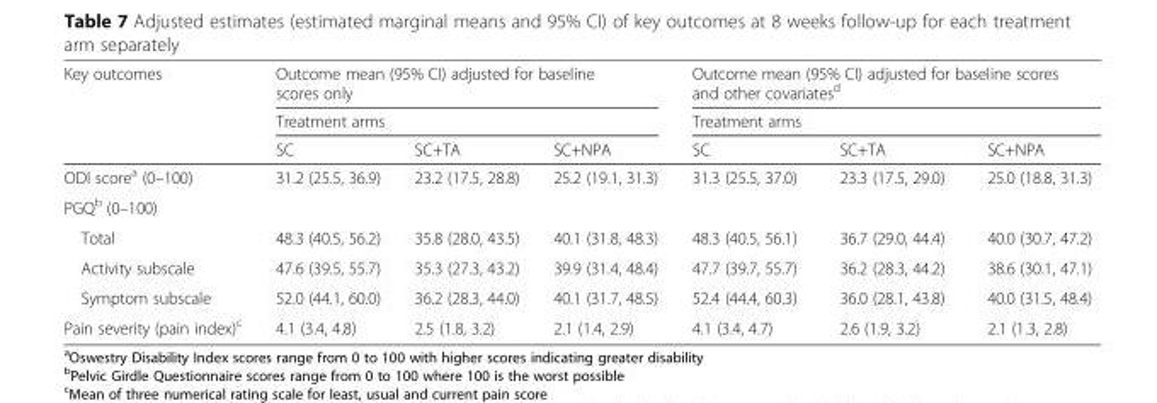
<table><thead><tr><td rowspan="3">Key outcomes</td><td rowspan="2" colspan="3">Outcome mean (95% CI) adjusted for baseline scores only Treatment arms</td><td rowspan="2" colspan="3">Outcome mean (95% CI) adjusted for baseline scores and other covariates<sup>d</sup> Treatment arms</td></tr><tr></tr><tr><td>SC</td><td>SC+TA</td><td>SC+NPA</td><td>SC</td><td>SC+TA</td><td>SC+NPA</td></tr></thead><tbody><tr><td>ODI score<sup>a</sup> (0–100)</td><td>31.2 (25.5, 36.9)</td><td>23.2 (17.5, 28.8)</td><td>25.2 (19.1, 31.3)</td><td>31.3 (25.5, 37.0)</td><td>23.3 (17.5, 29.0)</td><td>25.0 (18.8, 31.3)</td></tr><tr><td colspan="7">PGQ<sup>b</sup> (0–100)</td></tr><tr><td>Total</td><td>48.3 (40.5, 56.2)</td><td>35.8 (28.0, 43.5)</td><td>40.1 (31.8, 48.3)</td><td>48.3 (40.5, 56.1)</td><td>36.7 (29.0, 44.4)</td><td>40.0 (30.7, 47.2)</td></tr><tr><td>Activity subscale</td><td>47.6 (39.5, 55.7)</td><td>35.3 (27.3, 43.2)</td><td>39.9 (31.4, 48.4)</td><td>47.7 (39.7, 55.7)</td><td>36.2 (28.3, 44.2)</td><td>38.6 (30.1, 47.1)</td></tr><tr><td>Symptom subscale</td><td>52.0 (44.1, 60.0)</td><td>36.2 (28.3, 44.0)</td><td>40.1 (31.7, 48.5)</td><td>52.4 (44.4, 60.3)</td><td>36.0 (28.1, 43.8)</td><td>40.0 (31.5, 48.4)</td></tr><tr><td>Pain severity (pain index)<sup>c</sup></td><td>4.1 (3.4, 4.8)</td><td>2.5 (1.8, 3.2)</td><td>2.1 (1.4, 2.9)</td><td>4.1 (3.4, 4.7)</td><td>2.6 (1.9, 3.2)</td><td>2.1 (1.3, 2.8)</td></tr></tbody></table>